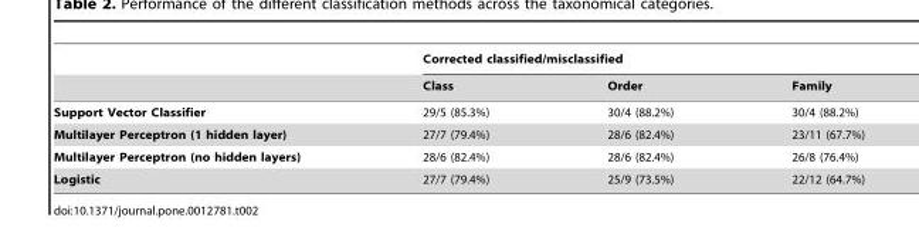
<table><thead><tr><td rowspan="2"></td><td colspan="3">Corrected classified/misclassified</td></tr><tr><td>Class</td><td>Order</td><td>Family</td></tr></thead><tbody><tr><td>Support Vector Classifier</td><td>29/5 (85.3%)</td><td>30/4 (88.2%)</td><td>30/4 (88.2%)</td></tr><tr><td>Multilayer Perceptron (1 hidden layer)</td><td>27/7 (79.4%)</td><td>28/6 (82.4%)</td><td>23/11 (67.7%)</td></tr><tr><td>Multilayer Perceptron (no hidden layers)</td><td>28/6 (82.4%)</td><td>28/6 (82.4%)</td><td>26/8 (76.4%)</td></tr><tr><td>Logistic</td><td>27/7 (79.4%)</td><td>25/9 (73.5%)</td><td>22/12 (64.7%)</td></tr></tbody></table>